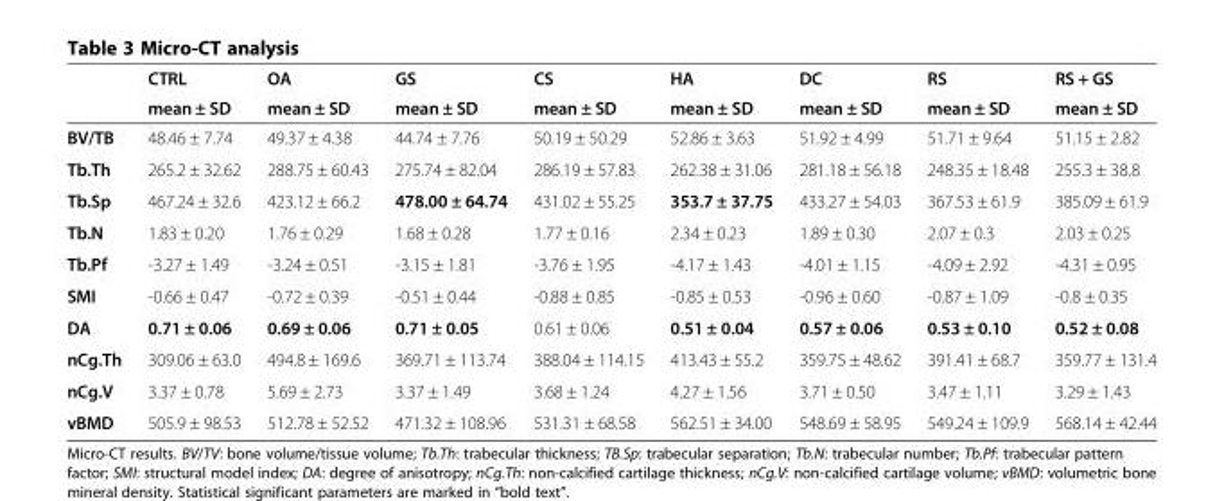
<table><thead><tr><td rowspan="2"></td><td rowspan="2">CTRL mean ± SD</td><td rowspan="2">OA mean ± SD</td><td rowspan="2">GS mean ± SD</td><td rowspan="2">CS mean ± SD</td><td rowspan="2">HA mean ± SD</td><td rowspan="2">DC mean ± SD</td><td rowspan="2">RS mean ± SD</td><td rowspan="2">RS + GS mean ± SD</td></tr><tr></tr></thead><tbody><tr><td>BV/TB</td><td>48.46 ± 7.74</td><td>49.37 ± 4.38</td><td>44.74 ± 7.76</td><td>50.19 ± 50.29</td><td>52.86 ± 3.63</td><td>51.92 ± 4.99</td><td>51.71 ± 9.64</td><td>51.15 ± 2.82</td></tr><tr><td>Tb.Th</td><td>265.2 ± 32.62</td><td>288.75 ± 60.43</td><td>275.74 ± 82.04</td><td>286.19 ± 57.83</td><td>262.38 ± 31.06</td><td>281.18 ± 56.18</td><td>248.35 ± 18.48</td><td>255.3 ± 38.8</td></tr><tr><td>Tb.Sp</td><td>467.24 ± 32.6</td><td>423.12 ± 66.2</td><td>478.00 ± 64.74</td><td>431.02 ± 55.25</td><td>353.7 ± 37.75</td><td>433.27 ± 54.03</td><td>367.53 ± 61.9</td><td>385.09 ± 61.9</td></tr><tr><td>Tb.N</td><td>1.83 ± 0.20</td><td>1.76 ± 0.29</td><td>1.68 ± 0.28</td><td>1.77 ± 0.16</td><td>2.34 ± 0.23</td><td>1.89 ± 0.30</td><td>2.07 ± 0.3</td><td>2.03 ± 0.25</td></tr><tr><td>Tb.Pf</td><td>-3.27 ± 1.49</td><td>-3.24 ± 0.51</td><td>-3.15 ± 1.81</td><td>-3.76 ± 1.95</td><td>-4.17 ± 1.43</td><td>-4.01 ± 1.15</td><td>-4.09 ± 2.92</td><td>-4.31 ± 0.95</td></tr><tr><td>SMI</td><td>-0.66 ± 0.47</td><td>-0.72 ± 0.39</td><td>-0.51 ± 0.44</td><td>-0.88 ± 0.85</td><td>-0.85 ± 0.53</td><td>-0.96 ± 0.60</td><td>-0.87 ± 1.09</td><td>-0.8 ± 0.35</td></tr><tr><td>DA</td><td>0.71 ± 0.06</td><td>0.69 ± 0.06</td><td>0.71 ± 0.05</td><td>0.61 ± 0.06</td><td>0.51 ± 0.04</td><td>0.57 ± 0.06</td><td>0.53 ± 0.10</td><td>0.52 ± 0.08</td></tr><tr><td>nCg.Th</td><td>309.06 ± 63.0</td><td>494.8 ± 169.6</td><td>369.71 ± 113.74</td><td>388.04 ± 114.15</td><td>413.43 ± 55.2</td><td>359.75 ± 48.62</td><td>391.41 ± 68.7</td><td>359.77 ± 131.4</td></tr><tr><td>nCg.V</td><td>3.37 ± 0.78</td><td>5.69 ± 2.73</td><td>3.37 ± 1.49</td><td>3.68 ± 1.24</td><td>4.27 ± 1.56</td><td>3.71 ± 0.50</td><td>3.47 ± 1.11</td><td>3.29 ± 1.43</td></tr><tr><td>vBMD</td><td>505.9 ± 98.53</td><td>512.78 ± 52.52</td><td>471.32 ± 108.96</td><td>531.31 ± 68.58</td><td>562.51 ± 34.00</td><td>548.69 ± 58.95</td><td>549.24 ± 109.9</td><td>568.14 ± 42.44</td></tr></tbody></table>